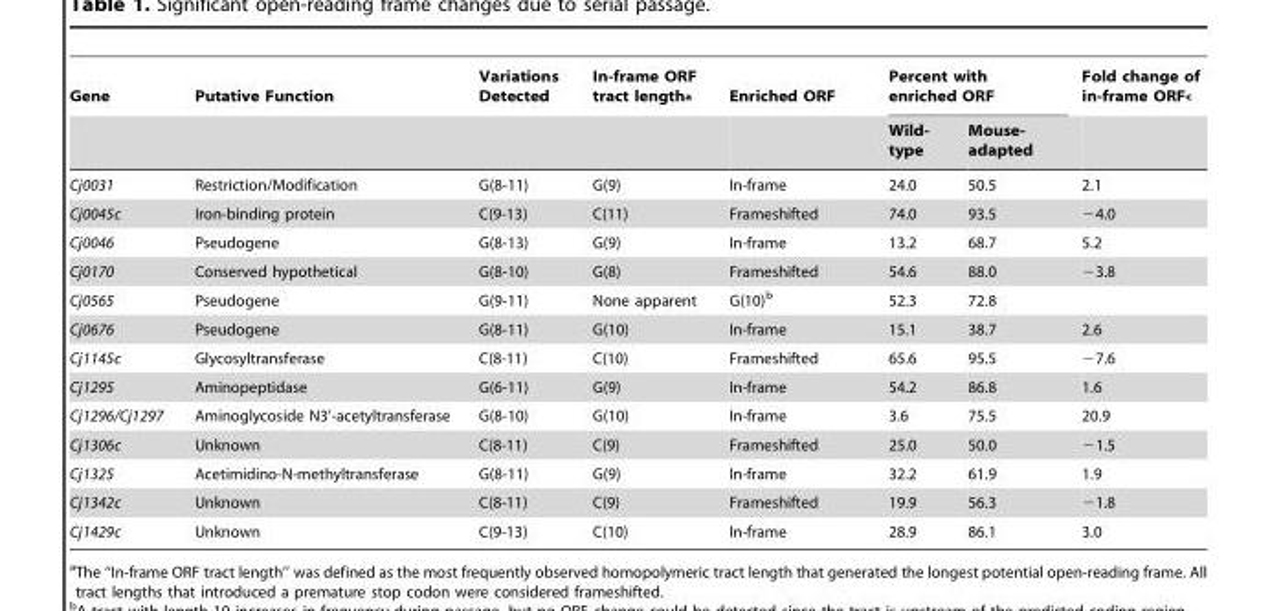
<table><thead><tr><td rowspan="2">Gene</td><td rowspan="2">Putative Function</td><td rowspan="2">Variations Detected</td><td rowspan="2">In-frame ORF tract length<sup>a</sup></td><td rowspan="2">Enriched ORF</td><td colspan="2">Percent with enriched ORF</td><td rowspan="2">Fold change of in-frame ORF<sup>c</sup></td></tr><tr><td>Wild- type</td><td>Mouse- adapted</td></tr></thead><tbody><tr><td>Cj0031</td><td>Restriction/Modification</td><td>G(8-11)</td><td>G(9)</td><td>In-frame</td><td>24.0</td><td>50.5</td><td>2.1</td></tr><tr><td>Cj0045c</td><td>Iron-binding protein</td><td>C(9-13)</td><td>C(11)</td><td>Frameshifted</td><td>74.0</td><td>93.5</td><td>−4.0</td></tr><tr><td>Cj0046</td><td>Pseudogene</td><td>G(8-13)</td><td>G(9)</td><td>In-frame</td><td>13.2</td><td>68.7</td><td>5.2</td></tr><tr><td>Cj0170</td><td>Conserved hypothetical</td><td>G(8-10)</td><td>G(8)</td><td>Frameshifted</td><td>54.6</td><td>88.0</td><td>−3.8</td></tr><tr><td>Cj0565</td><td>Pseudogene</td><td>G(9-11)</td><td>None apparent</td><td>G(10)<sup>b</sup></td><td>52.3</td><td>72.8</td><td></td></tr><tr><td>Cj0676</td><td>Pseudogene</td><td>G(8-11)</td><td>G(10)</td><td>In-frame</td><td>15.1</td><td>38.7</td><td>2.6</td></tr><tr><td>Cj1145c</td><td>Glycosyltransferase</td><td>C(8-11)</td><td>C(10)</td><td>Frameshifted</td><td>65.6</td><td>95.5</td><td>−7.6</td></tr><tr><td>Cj1295</td><td>Aminopeptidase</td><td>G(6-11)</td><td>G(9)</td><td>In-frame</td><td>54.2</td><td>86.8</td><td>1.6</td></tr><tr><td>Cj1296/Cj1297</td><td>Aminoglycoside N3’-acetyltransferase</td><td>G(8-10)</td><td>G(10)</td><td>In-frame</td><td>3.6</td><td>75.5</td><td>20.9</td></tr><tr><td>Cj1306c</td><td>Unknown</td><td>C(8-11)</td><td>C(9)</td><td>Frameshifted</td><td>25.0</td><td>50.0</td><td>−1.5</td></tr><tr><td>Cj1325</td><td>Acetimidino-N-methyltransferase</td><td>G(8-11)</td><td>G(9)</td><td>In-frame</td><td>32.2</td><td>61.9</td><td>1.9</td></tr><tr><td>Cj1342c</td><td>Unknown</td><td>C(8-11)</td><td>C(9)</td><td>Frameshifted</td><td>19.9</td><td>56.3</td><td>−1.8</td></tr><tr><td>Cj1429c</td><td>Unknown</td><td>C(9-13)</td><td>C(10)</td><td>In-frame</td><td>28.9</td><td>86.1</td><td>3.0</td></tr></tbody></table>